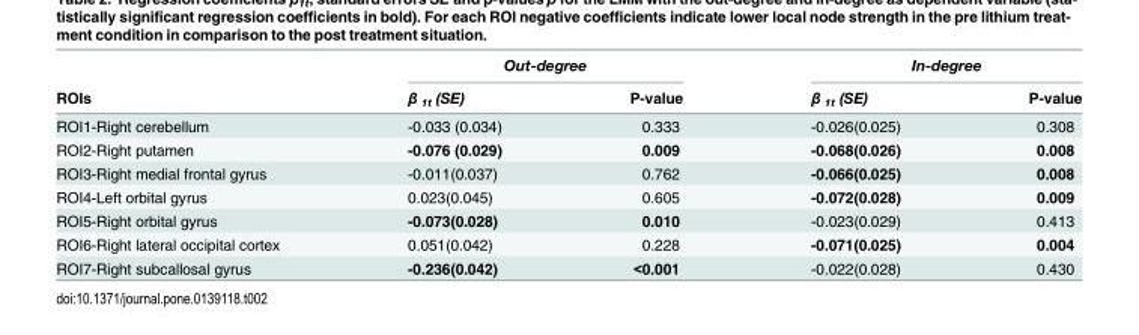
<table><thead><tr><td rowspan="2">ROIs</td><td colspan="2">Out-degree</td><td colspan="2">In-degree</td></tr><tr><td>β <sub>1t</sub> (SE)</td><td>P-value</td><td>β <sub>1t</sub> (SE)</td><td>P-value</td></tr></thead><tbody><tr><td>ROI1-Right cerebellum</td><td>-0.033 (0.034)</td><td>0.333</td><td>-0.026(0.025)</td><td>0.308</td></tr><tr><td>ROI2-Right putamen</td><td>-0.076 (0.029)</td><td>0.009</td><td>-0.068(0.026)</td><td>0.008</td></tr><tr><td>ROI3-Right medial frontal gyrus</td><td>-0.011(0.037)</td><td>0.762</td><td>-0.066(0.025)</td><td>0.008</td></tr><tr><td>ROI4-Left orbital gyrus</td><td>0.023(0.045)</td><td>0.605</td><td>-0.072(0.028)</td><td>0.009</td></tr><tr><td>ROI5-Right orbital gyrus</td><td>-0.073(0.028)</td><td>0.010</td><td>-0.023(0.029)</td><td>0.413</td></tr><tr><td>ROI6-Right lateral occipital cortex</td><td>0.051(0.042)</td><td>0.228</td><td>-0.071(0.025)</td><td>0.004</td></tr><tr><td>ROI7-Right subcallosal gyrus</td><td>-0.236(0.042)</td><td>&lt;0.001</td><td>-0.022(0.028)</td><td>0.430</td></tr></tbody></table>